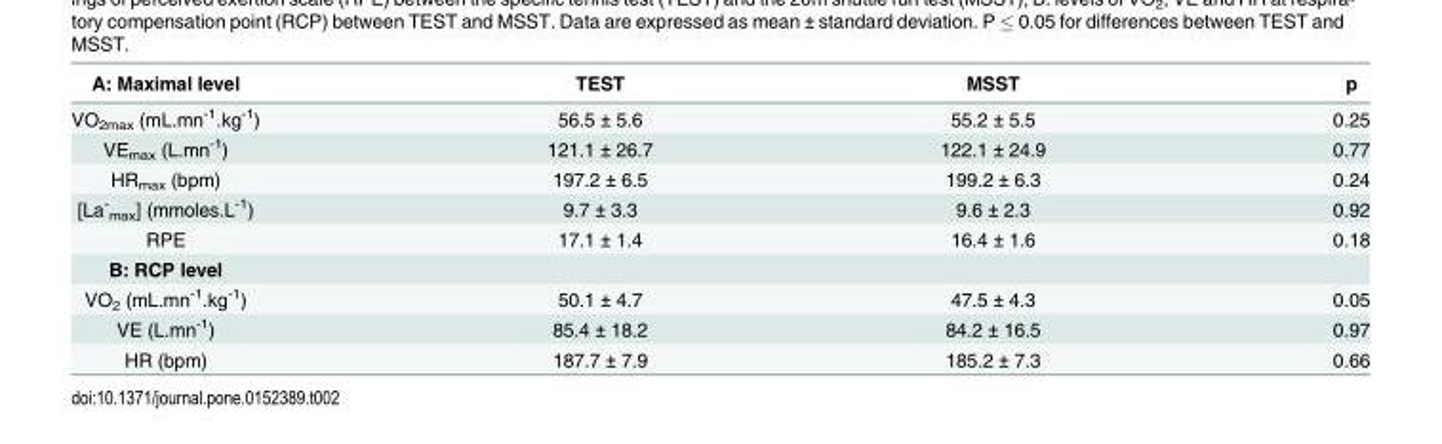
<table><thead><tr><td>A: Maximal level</td><td>TEST</td><td>MSST</td><td>p</td></tr></thead><tbody><tr><td>VO<sub>2max</sub> (mL.mn<sup>-1</sup>.kg<sup>-1</sup>)</td><td>56.5 ± 5.6</td><td>55.2 ± 5.5</td><td>0.25</td></tr><tr><td>VE<sub>max</sub> (L.mn<sup>-1</sup>)</td><td>121.1 ± 26.7</td><td>122.1 ± 24.9</td><td>0.77</td></tr><tr><td>HR<sub>max</sub> (bpm)</td><td>197.2 ± 6.5</td><td>199.2 ± 6.3</td><td>0.24</td></tr><tr><td>[La<sup>-</sup> <sub>max</sub>] (mmoles.L<sup>-1</sup>)</td><td>9.7 ± 3.3</td><td>9.6 ± 2.3</td><td>0.92</td></tr><tr><td>RPE</td><td>17.1 ± 1.4</td><td>16.4 ± 1.6</td><td>0.18</td></tr><tr><td colspan="4">B: RCP level</td></tr><tr><td>VO<sub>2</sub> (mL.mn<sup>-1</sup>.kg<sup>-1</sup>)</td><td>50.1 ± 4.7</td><td>47.5 ± 4.3</td><td>0.05</td></tr><tr><td>VE (L.mn<sup>-1</sup>)</td><td>85.4 ± 18.2</td><td>84.2 ± 16.5</td><td>0.97</td></tr><tr><td>HR (bpm)</td><td>187.7 ± 7.9</td><td>185.2 ± 7.3</td><td>0.66</td></tr></tbody></table>